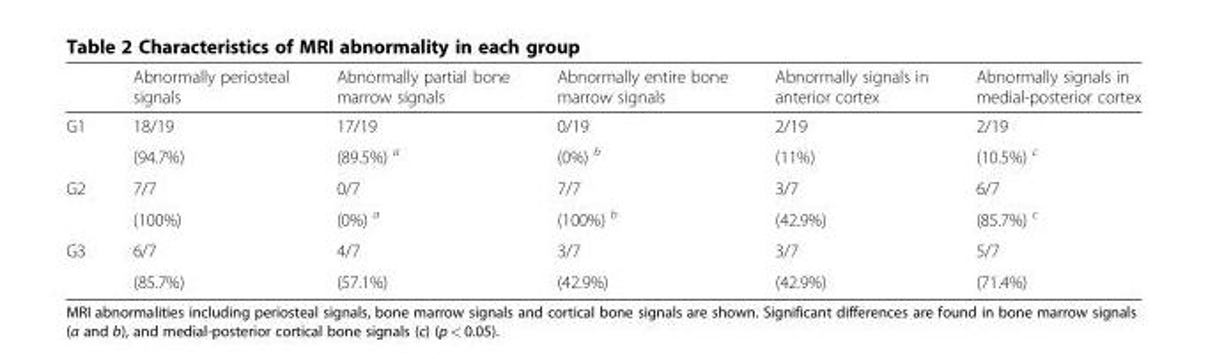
<table><thead><tr><td></td><td>Abnormally periosteal signals</td><td>Abnormally partial bone marrow signals</td><td>Abnormally entire bone marrow signals</td><td>Abnormally signals in anterior cortex</td><td>Abnormally signals in medial-posterior cortex</td></tr></thead><tbody><tr><td rowspan="2">G1</td><td>18/19</td><td>17/19</td><td>0/19</td><td>2/19</td><td>2/19</td></tr><tr><td>(94.7%)</td><td>(89.5%) <sup>a</sup></td><td>(0%) <sup>b</sup></td><td>(11%)</td><td>(10.5%) <sup>c</sup></td></tr><tr><td rowspan="2">G2</td><td>7/7</td><td>0/7</td><td>7/7</td><td>3/7</td><td>6/7</td></tr><tr><td>(100%)</td><td>(0%) <sup>a</sup></td><td>(100%) <sup>b</sup></td><td>(42.9%)</td><td>(85.7%) <sup>c</sup></td></tr><tr><td rowspan="2">G3</td><td>6/7</td><td>4/7</td><td>3/7</td><td>3/7</td><td>5/7</td></tr><tr><td>(85.7%)</td><td>(57.1%)</td><td>(42.9%)</td><td>(42.9%)</td><td>(71.4%)</td></tr></tbody></table>